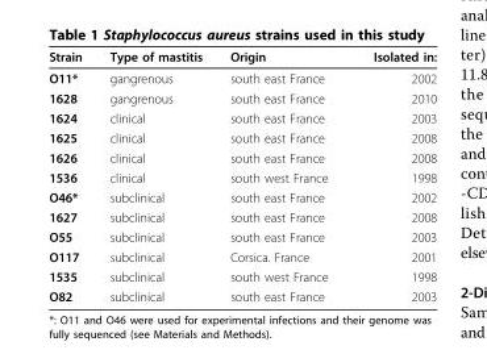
<table><thead><tr><td>Strain</td><td>Type of mastitis</td><td>Origin</td><td>Isolated in:</td></tr></thead><tbody><tr><td>O11*</td><td>gangrenous</td><td>south east France</td><td>2002</td></tr><tr><td>1628</td><td>gangrenous</td><td>south east France</td><td>2010</td></tr><tr><td>1624</td><td>clinical</td><td>south east France</td><td>2003</td></tr><tr><td>1625</td><td>clinical</td><td>south east France</td><td>2008</td></tr><tr><td>1626</td><td>clinical</td><td>south east France</td><td>2008</td></tr><tr><td>1536</td><td>clinical</td><td>south west France</td><td>1998</td></tr><tr><td>O46*</td><td>subclinical</td><td>south east France</td><td>2002</td></tr><tr><td>1627</td><td>subclinical</td><td>south east France</td><td>2008</td></tr><tr><td>O55</td><td>subclinical</td><td>south east France</td><td>2003</td></tr><tr><td>O117</td><td>subclinical</td><td>Corsica. France</td><td>2001</td></tr><tr><td>1535</td><td>subclinical</td><td>south west France</td><td>1998</td></tr><tr><td>O82</td><td>subclinical</td><td>south east France</td><td>2003</td></tr></tbody></table>